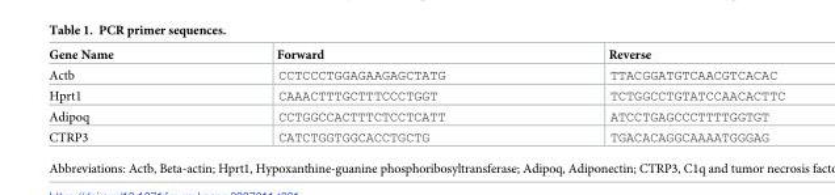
<table><thead><tr><td>Gene Name</td><td>Forward</td><td>Reverse</td></tr></thead><tbody><tr><td>Actb</td><td>CCTCCCTGGAGAAGAGCTATG</td><td>TTACGGATGTCAACGTCACAC</td></tr><tr><td>Hprt1</td><td>CAAACTTTGCTTTCCCTGGT</td><td>TCTGGCCTGTATCCAACACTTC</td></tr><tr><td>Adipoq</td><td>CCTGGCCACTTTCTCCTCATT</td><td>ATCCTGAGCCCTTTTGGTGT</td></tr><tr><td>CTRP3</td><td>CATCTGGTGGCACCTGCTG</td><td>TGACACAGGCAAAATGGGAG</td></tr></tbody></table>